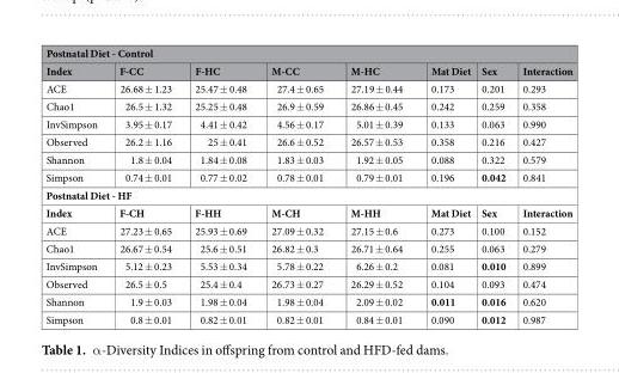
<table><thead><tr><td colspan="8">Postnatal Diet - Control</td></tr><tr><td>Index</td><td>F-CC</td><td>F-HC</td><td>M-CC</td><td>M-HC</td><td>Mat Diet</td><td>Sex</td><td>Interaction</td></tr></thead><tbody><tr><td>ACE</td><td>26.68 ± 1.23</td><td>25.47 ± 0.48</td><td>27.4 ± 0.65</td><td>27.19 ± 0.44</td><td>0.173</td><td>0.201</td><td>0.293</td></tr><tr><td>Chao1</td><td>26.5 ± 1.32</td><td>25.25 ± 0.48</td><td>26.9 ± 0.59</td><td>26.86 ± 0.45</td><td>0.242</td><td>0.259</td><td>0.358</td></tr><tr><td>InvSimpson</td><td>3.95 ± 0.17</td><td>4.41 ± 0.42</td><td>4.56 ± 0.17</td><td>5.01 ± 0.39</td><td>0.133</td><td>0.063</td><td>0.990</td></tr><tr><td>Observed</td><td>26.2 ± 1.16</td><td>25 ± 0.41</td><td>26.6 ± 0.52</td><td>26.57 ± 0.53</td><td>0.358</td><td>0.216</td><td>0.427</td></tr><tr><td>Shannon</td><td>1.8 ± 0.04</td><td>1.84 ± 0.08</td><td>1.83 ± 0.03</td><td>1.92 ± 0.05</td><td>0.088</td><td>0.322</td><td>0.579</td></tr><tr><td>Simpson</td><td>0.74 ± 0.01</td><td>0.77 ± 0.02</td><td>0.78 ± 0.01</td><td>0.79 ± 0.01</td><td>0.196</td><td>0.042</td><td>0.841</td></tr><tr><td colspan="8">Postnatal Diet - HF</td></tr><tr><td>Index</td><td>F-CH</td><td>F-HH</td><td>M-CH</td><td>M-HH</td><td>Mat Diet</td><td>Sex</td><td>Interaction</td></tr><tr><td>ACE</td><td>27.23 ± 0.65</td><td>25.93 ± 0.69</td><td>27.09 ± 0.32</td><td>27.15 ± 0.6</td><td>0.273</td><td>0.100</td><td>0.152</td></tr><tr><td>Chao1</td><td>26.67 ± 0.54</td><td>25.6 ± 0.51</td><td>26.82 ± 0.3</td><td>26.71 ± 0.64</td><td>0.255</td><td>0.063</td><td>0.279</td></tr><tr><td>InvSimpson</td><td>5.12 ± 0.23</td><td>5.53 ± 0.34</td><td>5.78 ± 0.22</td><td>6.26 ± 0.2</td><td>0.081</td><td>0.010</td><td>0.899</td></tr><tr><td>Observed</td><td>26.5 ± 0.5</td><td>25.4 ± 0.4</td><td>26.73 ± 0.27</td><td>26.29 ± 0.52</td><td>0.104</td><td>0.093</td><td>0.474</td></tr><tr><td>Shannon</td><td>1.9 ± 0.03</td><td>1.98 ± 0.04</td><td>1.98 ± 0.04</td><td>2.09 ± 0.02</td><td>0.011</td><td>0.016</td><td>0.620</td></tr><tr><td>Simpson</td><td>0.8 ± 0.01</td><td>0.82 ± 0.01</td><td>0.82 ± 0.01</td><td>0.84 ± 0.01</td><td>0.090</td><td>0.012</td><td>0.987</td></tr></tbody></table>